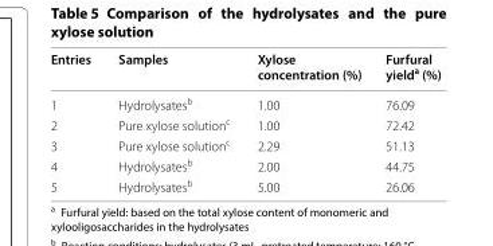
<table><thead><tr><td>Entries</td><td>Samples</td><td>Xylose concentration (%)</td><td>Furfural yield<sup>a</sup> (%)</td></tr></thead><tbody><tr><td>1</td><td>Hydrolysates<sup>b</sup></td><td>1.00</td><td>76.09</td></tr><tr><td>2</td><td>Pure xylose solution<sup>c</sup></td><td>1.00</td><td>72.42</td></tr><tr><td>3</td><td>Pure xylose solution<sup>c</sup></td><td>2.29</td><td>51.13</td></tr><tr><td>4</td><td>Hydrolysates<sup>b</sup></td><td>2.00</td><td>44.75</td></tr><tr><td>5</td><td>Hydrolysates<sup>b</sup></td><td>5.00</td><td>26.06</td></tr></tbody></table>